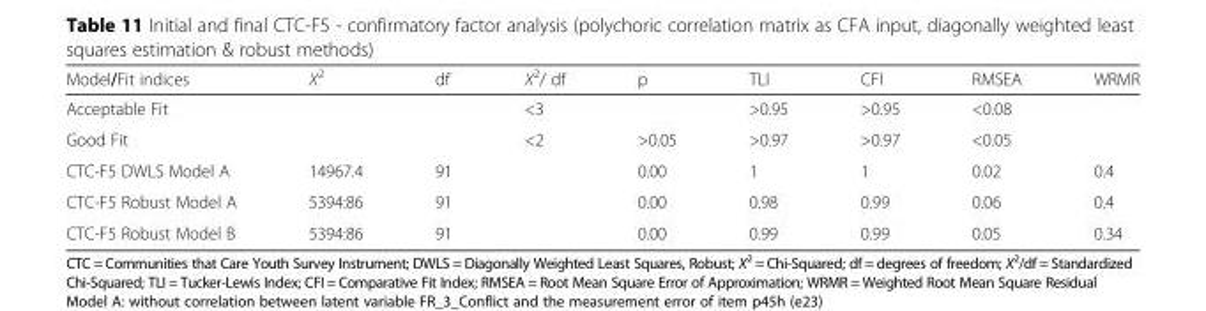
<table><thead><tr><td>Model/Fit indices</td><td>Χ<sup>2</sup></td><td>df</td><td>Χ<sup>2</sup>/ df</td><td>p</td><td>TLI</td><td>CFI</td><td>RMSEA</td><td>WRMR</td></tr></thead><tbody><tr><td>Acceptable Fit</td><td></td><td></td><td>&lt;3</td><td></td><td>&gt;0.95</td><td>&gt;0.95</td><td>&lt;0.08</td><td></td></tr><tr><td>Good Fit</td><td></td><td></td><td>&lt;2</td><td>&gt;0.05</td><td>&gt;0.97</td><td>&gt;0.97</td><td>&lt;0.05</td><td></td></tr><tr><td>CTC-F5 DWLS Model A</td><td>14967.4</td><td>91</td><td></td><td>0.00</td><td>1</td><td>1</td><td>0.02</td><td>0.4</td></tr><tr><td>CTC-F5 Robust Model A</td><td>5394:86</td><td>91</td><td></td><td>0.00</td><td>0.98</td><td>0.99</td><td>0.06</td><td>0.4</td></tr><tr><td>CTC-F5 Robust Model B</td><td>5394:86</td><td>91</td><td></td><td>0.00</td><td>0.99</td><td>0.99</td><td>0.05</td><td>0.34</td></tr></tbody></table>